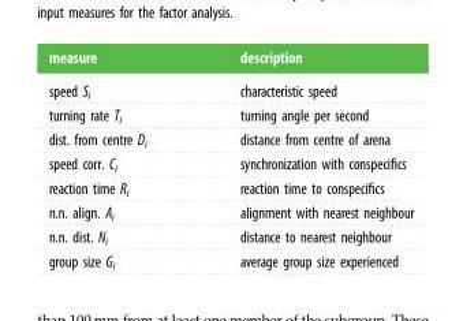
<table><thead><tr><td>measure</td><td>description</td></tr></thead><tbody><tr><td>speed S<sub>i</sub></td><td>characteristic speed</td></tr><tr><td>turning rate T<sub>i</sub></td><td>turning angle per second</td></tr><tr><td>dist. from centre D<sub>i</sub></td><td>distance from centre of arena</td></tr><tr><td>speed corr. C<sub>i</sub></td><td>synchronization with conspecifics</td></tr><tr><td>reaction time R<sub>i</sub></td><td>reaction time to conspecifics</td></tr><tr><td>n.n. align. A<sub>i</sub></td><td>alignment with nearest neighbour</td></tr><tr><td>n.n. dist. N<sub>i</sub></td><td>distance to nearest neighbour</td></tr><tr><td>group size G<sub>i</sub></td><td>average group size experienced</td></tr></tbody></table>